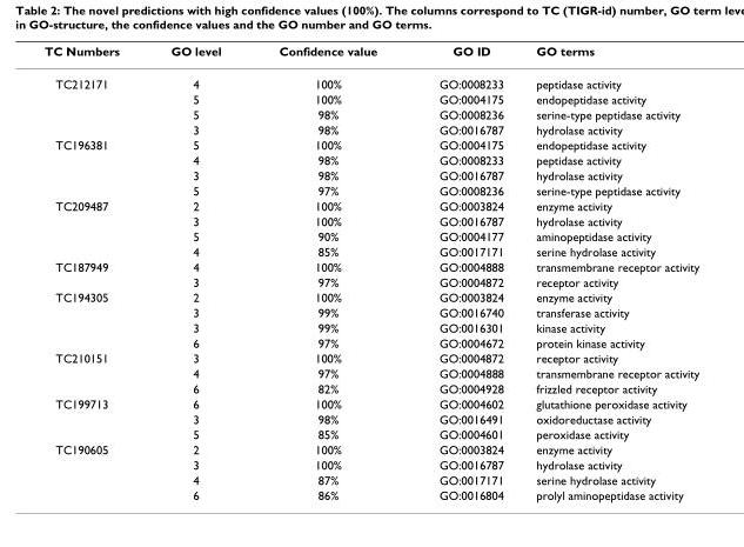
<table><thead><tr><td>TC Numbers</td><td>GO level</td><td>Confidence value</td><td>GO ID</td><td>GO terms</td></tr></thead><tbody><tr><td rowspan="4">TC212171</td><td>4</td><td>100%</td><td>GO:0008233</td><td>peptidase activity</td></tr><tr><td>5</td><td>100%</td><td>GO:0004175</td><td>endopeptidase activity</td></tr><tr><td>5</td><td>98%</td><td>GO:0008236</td><td>serine-type peptidase activity</td></tr><tr><td>3</td><td>98%</td><td>GO:0016787</td><td>hydrolase activity</td></tr><tr><td rowspan="4">TC196381</td><td>5</td><td>100%</td><td>GO:0004175</td><td>endopeptidase activity</td></tr><tr><td>4</td><td>98%</td><td>GO:0008233</td><td>peptidase activity</td></tr><tr><td>3</td><td>98%</td><td>GO:0016787</td><td>hydrolase activity</td></tr><tr><td>5</td><td>97%</td><td>GO:0008236</td><td>serine-type peptidase activity</td></tr><tr><td rowspan="4">TC209487</td><td>2</td><td>100%</td><td>GO:0003824</td><td>enzyme activity</td></tr><tr><td>3</td><td>100%</td><td>GO:0016787</td><td>hydrolase activity</td></tr><tr><td>5</td><td>90%</td><td>GO:0004177</td><td>aminopeptidase activity</td></tr><tr><td>4</td><td>85%</td><td>GO:0017171</td><td>serine hydrolase activity</td></tr><tr><td rowspan="2">TC187949</td><td>4</td><td>100%</td><td>GO:0004888</td><td>transmembrane receptor activity</td></tr><tr><td>3</td><td>97%</td><td>GO:0004872</td><td>receptor activity</td></tr><tr><td rowspan="4">TC194305</td><td>2</td><td>100%</td><td>GO:0003824</td><td>enzyme activity</td></tr><tr><td>3</td><td>99%</td><td>GO:0016740</td><td>transferase activity</td></tr><tr><td>3</td><td>99%</td><td>GO:0016301</td><td>kinase activity</td></tr><tr><td>6</td><td>97%</td><td>GO:0004672</td><td>protein kinase activity</td></tr><tr><td rowspan="3">TC210151</td><td>3</td><td>100%</td><td>GO:0004872</td><td>receptor activity</td></tr><tr><td>4</td><td>97%</td><td>GO:0004888</td><td>transmembrane receptor activity</td></tr><tr><td>6</td><td>82%</td><td>GO:0004928</td><td>frizzled receptor activity</td></tr><tr><td rowspan="3">TC199713</td><td>6</td><td>100%</td><td>GO:0004602</td><td>glutathione peroxidase activity</td></tr><tr><td>3</td><td>98%</td><td>GO:0016491</td><td>oxidoreductase activity</td></tr><tr><td>5</td><td>85%</td><td>GO:0004601</td><td>peroxidase activity</td></tr><tr><td rowspan="4">TC190605</td><td>2</td><td>100%</td><td>GO:0003824</td><td>enzyme activity</td></tr><tr><td>3</td><td>100%</td><td>GO:0016787</td><td>hydrolase activity</td></tr><tr><td>4</td><td>87%</td><td>GO:0017171</td><td>serine hydrolase activity</td></tr><tr><td>6</td><td>86%</td><td>GO:0016804</td><td>prolyl aminopeptidase activity</td></tr></tbody></table>